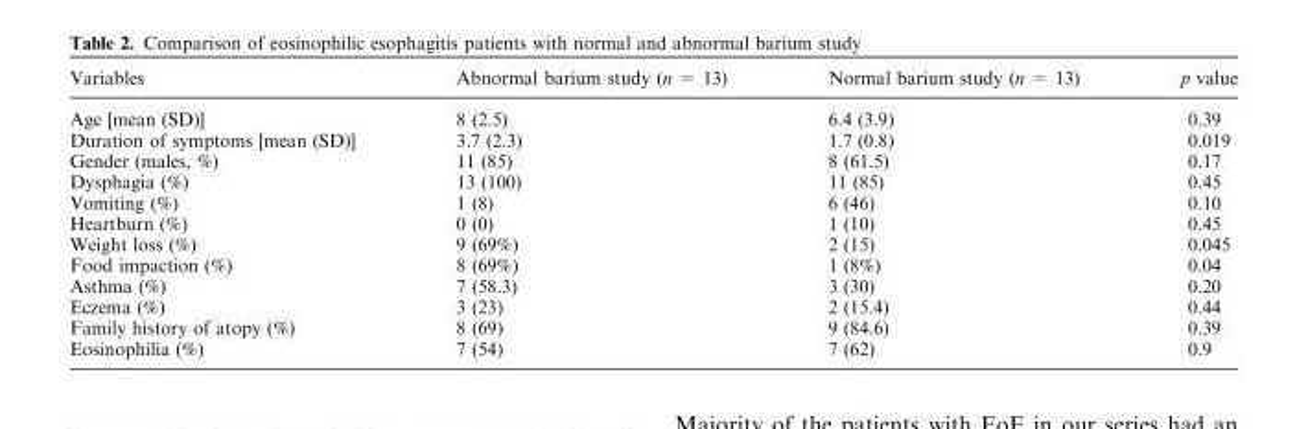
<table><thead><tr><td>Variables</td><td>Abnormal barium study (n = 13)</td><td>Normal barium study (n = 13)</td><td>p value</td></tr></thead><tbody><tr><td>Age [mean (SD)]</td><td>8 (2.5)</td><td>6.4 (3.9)</td><td>0.39</td></tr><tr><td>Duration of symptoms [mean (SD)]</td><td>3.7 (2.3)</td><td>1.7 (0.8)</td><td>0.019</td></tr><tr><td>Gender (males, %)</td><td>11 (85)</td><td>8 (61.5)</td><td>0.17</td></tr><tr><td>Dysphagia (%)</td><td>13 (100)</td><td>11 (85)</td><td>0.45</td></tr><tr><td>Vomiting (%)</td><td>1 (8)</td><td>6 (46)</td><td>0.10</td></tr><tr><td>Heartburn (%)</td><td>0 (0)</td><td>1 (10)</td><td>0.45</td></tr><tr><td>Weight loss (%)</td><td>9 (69%)</td><td>2 (15)</td><td>0.045</td></tr><tr><td>Food impaction (%)</td><td>8 (69%)</td><td>1 (8%)</td><td>0.04</td></tr><tr><td>Asthma (%)</td><td>7 (58.3)</td><td>3 (30)</td><td>0.20</td></tr><tr><td>Eczema (%)</td><td>3 (23)</td><td>2 (15.4)</td><td>0.44</td></tr><tr><td>Family history of atopy (%)</td><td>8 (69)</td><td>9 (84.6)</td><td>0.39</td></tr><tr><td>Eosinophilia (%)</td><td>7 (54)</td><td>7 (62)</td><td>0.9</td></tr></tbody></table>